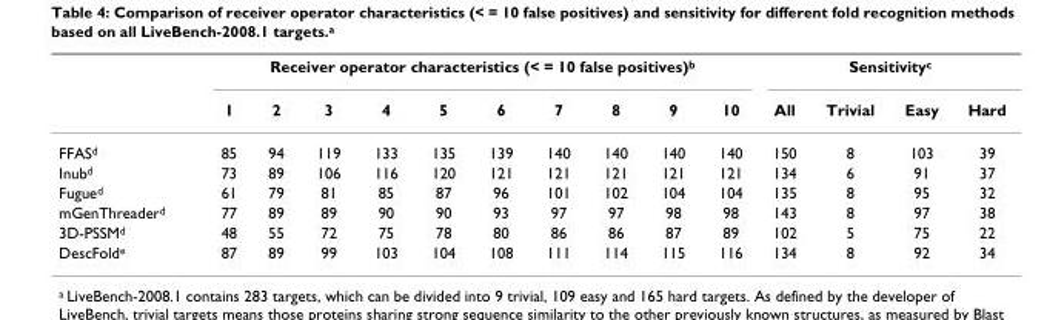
<table><thead><tr><td rowspan="2"></td><td colspan="10">Receiver operator characteristics (&lt; = 10 false positives)<sup>b</sup></td><td colspan="4">Sensitivity<sup>c</sup></td></tr><tr><td>1</td><td>2</td><td>3</td><td>4</td><td>5</td><td>6</td><td>7</td><td>8</td><td>9</td><td>10</td><td>All</td><td>Trivial</td><td>Easy</td><td>Hard</td></tr></thead><tbody><tr><td>FFAS<sup>d</sup></td><td>85</td><td>94</td><td>119</td><td>133</td><td>135</td><td>139</td><td>140</td><td>140</td><td>140</td><td>140</td><td>150</td><td>8</td><td>103</td><td>39</td></tr><tr><td>Inub<sup>d</sup></td><td>73</td><td>89</td><td>106</td><td>116</td><td>120</td><td>121</td><td>121</td><td>121</td><td>121</td><td>121</td><td>134</td><td>6</td><td>91</td><td>37</td></tr><tr><td>Fugue<sup>d</sup></td><td>61</td><td>79</td><td>81</td><td>85</td><td>87</td><td>96</td><td>101</td><td>102</td><td>104</td><td>104</td><td>135</td><td>8</td><td>95</td><td>32</td></tr><tr><td>mGenThreader<sup>d</sup></td><td>77</td><td>89</td><td>89</td><td>90</td><td>90</td><td>93</td><td>97</td><td>97</td><td>98</td><td>98</td><td>143</td><td>8</td><td>97</td><td>38</td></tr><tr><td>3D-PSSM<sup>d</sup></td><td>48</td><td>55</td><td>72</td><td>75</td><td>78</td><td>80</td><td>86</td><td>86</td><td>87</td><td>89</td><td>102</td><td>5</td><td>75</td><td>22</td></tr><tr><td>DescFold<sup>e</sup></td><td>87</td><td>89</td><td>99</td><td>103</td><td>104</td><td>108</td><td>111</td><td>114</td><td>115</td><td>116</td><td>134</td><td>8</td><td>92</td><td>34</td></tr></tbody></table>